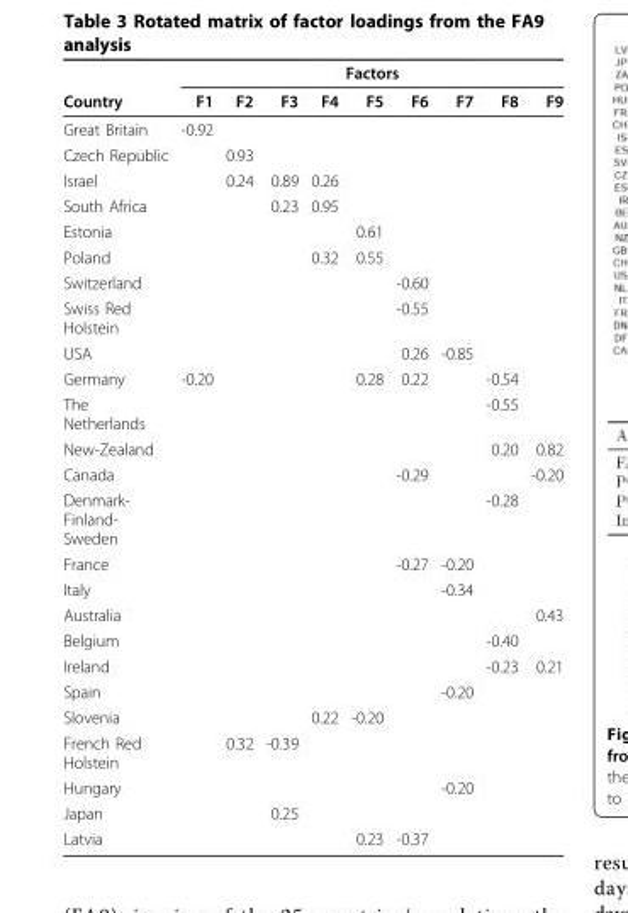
<table><thead><tr><td rowspan="2">Country</td><td colspan="9">Factors</td></tr><tr><td>F1</td><td>F2</td><td>F3</td><td>F4</td><td>F5</td><td>F6</td><td>F7</td><td>F8</td><td>F9</td></tr></thead><tbody><tr><td>Great Britain</td><td>-0.92</td><td></td><td></td><td></td><td></td><td></td><td></td><td></td><td></td></tr><tr><td>Czech Republic</td><td></td><td>0.93</td><td></td><td></td><td></td><td></td><td></td><td></td><td></td></tr><tr><td>Israel</td><td></td><td>0.24</td><td>0.89</td><td>0.26</td><td></td><td></td><td></td><td></td><td></td></tr><tr><td>South Africa</td><td></td><td></td><td>0.23</td><td>0.95</td><td></td><td></td><td></td><td></td><td></td></tr><tr><td>Estonia</td><td></td><td></td><td></td><td></td><td>0.61</td><td></td><td></td><td></td><td></td></tr><tr><td>Poland</td><td></td><td></td><td></td><td>0.32</td><td>0.55</td><td></td><td></td><td></td><td></td></tr><tr><td>Switzerland</td><td></td><td></td><td></td><td></td><td></td><td>-0.60</td><td></td><td></td><td></td></tr><tr><td>Swiss Red Holstein</td><td></td><td></td><td></td><td></td><td></td><td>-0.55</td><td></td><td></td><td></td></tr><tr><td>USA</td><td></td><td></td><td></td><td></td><td></td><td>0.26</td><td>-0.85</td><td></td><td></td></tr><tr><td>Germany</td><td>-0.20</td><td></td><td></td><td></td><td>0.28</td><td>0.22</td><td></td><td>-0.54</td><td></td></tr><tr><td>The Netherlands</td><td></td><td></td><td></td><td></td><td></td><td></td><td></td><td>-0.55</td><td></td></tr><tr><td>New-Zealand</td><td></td><td></td><td></td><td></td><td></td><td></td><td></td><td>0.20</td><td>0.82</td></tr><tr><td>Canada</td><td></td><td></td><td></td><td></td><td></td><td>-0.29</td><td></td><td></td><td>-0.20</td></tr><tr><td>Denmark- Finland- Sweden</td><td></td><td></td><td></td><td></td><td></td><td></td><td></td><td>-0.28</td><td></td></tr><tr><td>France</td><td></td><td></td><td></td><td></td><td></td><td>-0.27</td><td>-0.20</td><td></td><td></td></tr><tr><td>Italy</td><td></td><td></td><td></td><td></td><td></td><td></td><td>-0.34</td><td></td><td></td></tr><tr><td>Australia</td><td></td><td></td><td></td><td></td><td></td><td></td><td></td><td></td><td>0.43</td></tr><tr><td>Belgium</td><td></td><td></td><td></td><td></td><td></td><td></td><td></td><td>-0.40</td><td></td></tr><tr><td>Ireland</td><td></td><td></td><td></td><td></td><td></td><td></td><td></td><td>-0.23</td><td>0.21</td></tr><tr><td>Spain</td><td></td><td></td><td></td><td></td><td></td><td></td><td>-0.20</td><td></td><td></td></tr><tr><td>Slovenia</td><td></td><td></td><td></td><td>0.22</td><td>-0.20</td><td></td><td></td><td></td><td></td></tr><tr><td>French Red Holstein</td><td></td><td>0.32</td><td>-0.39</td><td></td><td></td><td></td><td></td><td></td><td></td></tr><tr><td>Hungary</td><td></td><td></td><td></td><td></td><td></td><td></td><td>-0.20</td><td></td><td></td></tr><tr><td>Japan</td><td></td><td></td><td>0.25</td><td></td><td></td><td></td><td></td><td></td><td></td></tr><tr><td>Latvia</td><td></td><td></td><td></td><td></td><td>0.23</td><td>-0.37</td><td></td><td></td><td></td></tr></tbody></table>